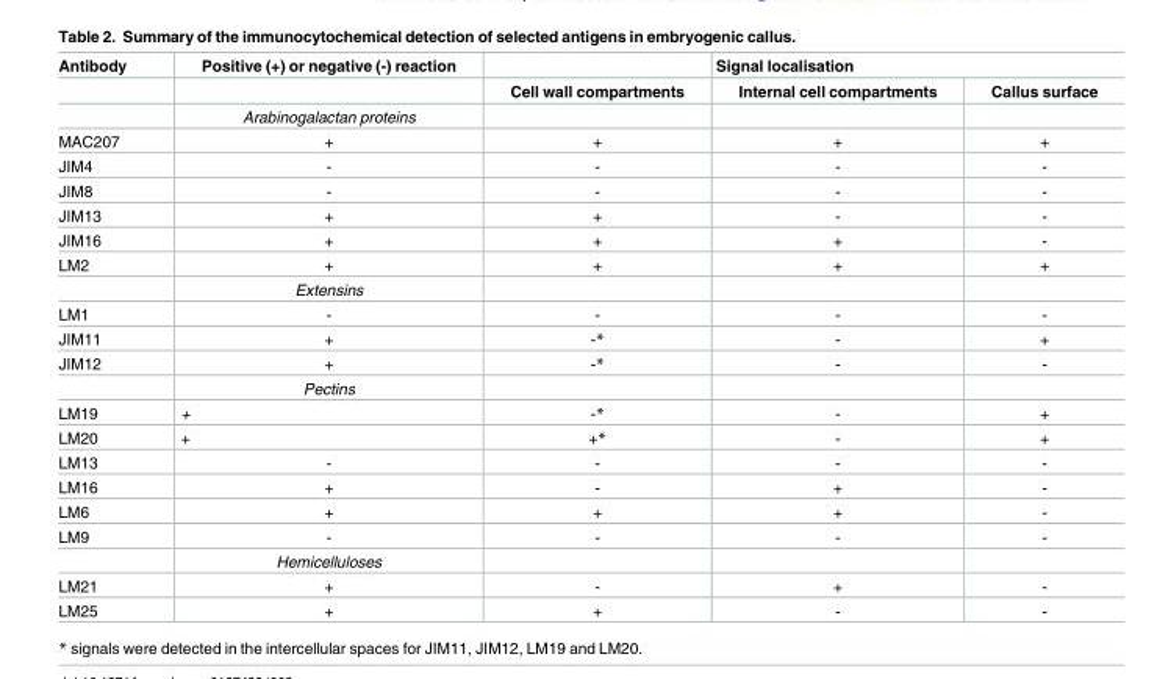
<table><thead><tr><td rowspan="2">Antibody</td><td rowspan="2">Positive (+) or negative (-) reaction</td><td rowspan="2">Cell wall compartments</td><td colspan="2">Signal localisation</td></tr><tr><td>Internal cell compartments</td><td>Callus surface</td></tr></thead><tbody><tr><td></td><td>Arabinogalactan proteins</td><td></td><td></td><td></td></tr><tr><td>MAC207</td><td>+</td><td>+</td><td>+</td><td>+</td></tr><tr><td>JIM4</td><td>-</td><td>-</td><td>-</td><td>-</td></tr><tr><td>JIM8</td><td>-</td><td>-</td><td>-</td><td>-</td></tr><tr><td>JIM13</td><td>+</td><td>+</td><td>-</td><td>-</td></tr><tr><td>JIM16</td><td>+</td><td>+</td><td>+</td><td>-</td></tr><tr><td rowspan="2">LM2</td><td>+</td><td>+</td><td>+</td><td>+</td></tr><tr><td>Extensins</td><td></td><td></td><td></td></tr><tr><td>LM1</td><td>-</td><td>-</td><td>-</td><td>-</td></tr><tr><td>JIM11</td><td>+</td><td>-*</td><td>-</td><td>+</td></tr><tr><td rowspan="2">JIM12</td><td>+</td><td>-*</td><td>-</td><td>-</td></tr><tr><td>Pectins</td><td></td><td></td><td></td></tr><tr><td>LM19</td><td>+</td><td>-*</td><td>-</td><td>+</td></tr><tr><td>LM20</td><td>+</td><td>+*</td><td>-</td><td>+</td></tr><tr><td>LM13</td><td>-</td><td>-</td><td>-</td><td>-</td></tr><tr><td>LM16</td><td>+</td><td>-</td><td>+</td><td>-</td></tr><tr><td>LM6</td><td>+</td><td>+</td><td>+</td><td>-</td></tr><tr><td rowspan="2">LM9</td><td>-</td><td>-</td><td>-</td><td>-</td></tr><tr><td>Hemicelluloses</td><td></td><td></td><td></td></tr><tr><td>LM21</td><td>+</td><td>-</td><td>+</td><td>-</td></tr><tr><td>LM25</td><td>+</td><td>+</td><td>-</td><td>-</td></tr></tbody></table>